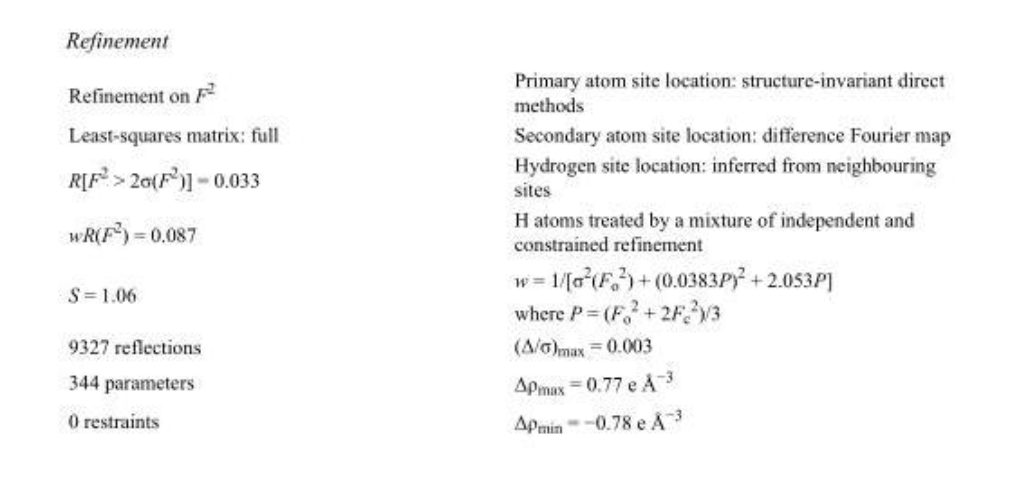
<table><tbody><tr><td>Refinement on F<sup>2</sup></td><td>Primary atom site location: structure-invariant direct methods</td></tr><tr><td>Least-squares matrix: full</td><td>Secondary atom site location: difference Fourier map</td></tr><tr><td>R[F<sup>2</sup> &gt; 2σ(F<sup>2</sup>)] = 0.033</td><td>Hydrogen site location: inferred from neighbouring sites</td></tr><tr><td>wR(F<sup>2</sup>) = 0.087</td><td>H atoms treated by a mixture of independent and constrained refinement</td></tr><tr><td>S = 1.06</td><td>w = 1/[σ<sup>2</sup>(F<sub>o</sub> <sup>2</sup>) + (0.0383P)<sup>2</sup> + 2.053P] where P = (F<sub>o</sub> <sup>2</sup> + 2F<sub>c</sub> <sup>2</sup>)/3</td></tr><tr><td>9327 reflections</td><td>(Δ/σ)<sub>max</sub> = 0.003</td></tr><tr><td>344 parameters</td><td>Δρ<sub>max</sub> = 0.77 e Å<sup>−3</sup></td></tr><tr><td>0 restraints</td><td>Δρ<sub>min</sub> = −0.78 e Å<sup>−3</sup></td></tr></tbody></table>